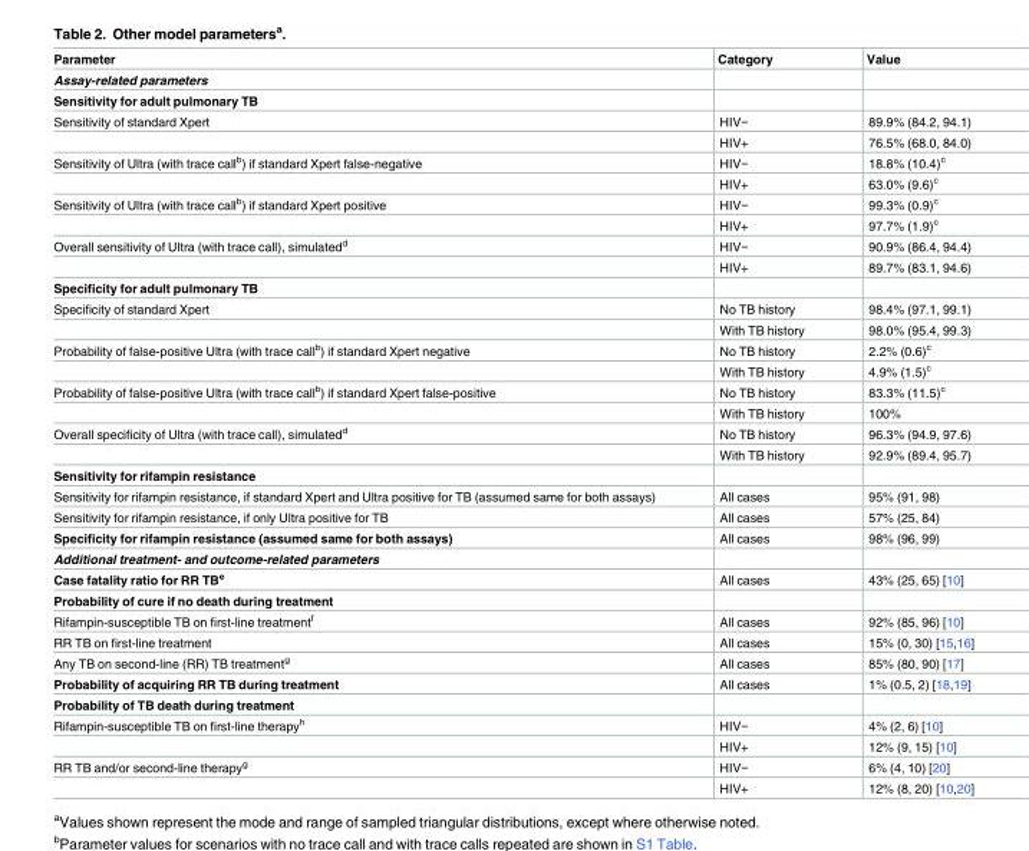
<table><thead><tr><td>Parameter</td><td>Category</td><td>Value</td></tr></thead><tbody><tr><td colspan="3">Assay-related parameters</td></tr><tr><td colspan="3">Sensitivity for adult pulmonary TB</td></tr><tr><td rowspan="2">Sensitivity of standard Xpert</td><td>HIV−</td><td>89.9% (84.2, 94.1)</td></tr><tr><td>HIV+</td><td>76.5% (68.0, 84.0)</td></tr><tr><td rowspan="2">Sensitivity of Ultra (with trace call<sup>b</sup>) if standard Xpert false-negative</td><td>HIV−</td><td>18.8% (10.4)<sup>c</sup></td></tr><tr><td>HIV+</td><td>63.0% (9.6)<sup>c</sup></td></tr><tr><td rowspan="2">Sensitivity of Ultra (with trace call<sup>b</sup>) if standard Xpert positive</td><td>HIV−</td><td>99.3% (0.9)<sup>c</sup></td></tr><tr><td>HIV+</td><td>97.7% (1.9)<sup>c</sup></td></tr><tr><td rowspan="2">Overall sensitivity of Ultra (with trace call), simulated<sup>d</sup></td><td>HIV−</td><td>90.9% (86.4, 94.4)</td></tr><tr><td>HIV+</td><td>89.7% (83.1, 94.6)</td></tr><tr><td colspan="3">Specificity for adult pulmonary TB</td></tr><tr><td rowspan="2">Specificity of standard Xpert</td><td>No TB history</td><td>98.4% (97.1, 99.1)</td></tr><tr><td>With TB history</td><td>98.0% (95.4, 99.3)</td></tr><tr><td rowspan="2">Probability of false-positive Ultra (with trace call<sup>b</sup>) if standard Xpert negative</td><td>No TB history</td><td>2.2% (0.6)<sup>c</sup></td></tr><tr><td>With TB history</td><td>4.9% (1.5)<sup>c</sup></td></tr><tr><td rowspan="2">Probability of false-positive Ultra (with trace call<sup>b</sup>) if standard Xpert false-positive</td><td>No TB history</td><td>83.3% (11.5)<sup>c</sup></td></tr><tr><td>With TB history</td><td>100%</td></tr><tr><td rowspan="2">Overall specificity of Ultra (with trace call), simulated<sup>d</sup></td><td>No TB history</td><td>96.3% (94.9, 97.6)</td></tr><tr><td>With TB history</td><td>92.9% (89.4, 95.7)</td></tr><tr><td colspan="3">Sensitivity for rifampin resistance</td></tr><tr><td>Sensitivity for rifampin resistance, if standard Xpert and Ultra positive for TB (assumed same for both assays)</td><td>All cases</td><td>95% (91, 98)</td></tr><tr><td>Sensitivity for rifampin resistance, if only Ultra positive for TB</td><td>All cases</td><td>57% (25, 84)</td></tr><tr><td>Specificity for rifampin resistance (assumed same for both assays)</td><td>All cases</td><td>98% (96, 99)</td></tr><tr><td colspan="3">Additional treatment- and outcome-related parameters</td></tr><tr><td>Case fatality ratio for RR TB<sup>e</sup></td><td>All cases</td><td>43% (25, 65) [10]</td></tr><tr><td colspan="3">Probability of cure if no death during treatment</td></tr><tr><td>Rifampin-susceptible TB on first-line treatment<sup>f</sup></td><td>All cases</td><td>92% (85, 96) [10]</td></tr><tr><td>RR TB on first-line treatment</td><td>All cases</td><td>15% (0, 30) [15,16]</td></tr><tr><td>Any TB on second-line (RR) TB treatment<sup>g</sup></td><td>All cases</td><td>85% (80, 90) [17]</td></tr><tr><td>Probability of acquiring RR TB during treatment</td><td>All cases</td><td>1% (0.5, 2) [18,19]</td></tr><tr><td colspan="3">Probability of TB death during treatment</td></tr><tr><td rowspan="2">Rifampin-susceptible TB on first-line therapy<sup>h</sup></td><td>HIV−</td><td>4% (2, 6) [10]</td></tr><tr><td>HIV+</td><td>12% (9, 15) [10]</td></tr><tr><td rowspan="2">RR TB and/or second-line therapy<sup>g</sup></td><td>HIV−</td><td>6% (4, 10) [20]</td></tr><tr><td>HIV+</td><td>12% (8, 20) [10,20]</td></tr></tbody></table>